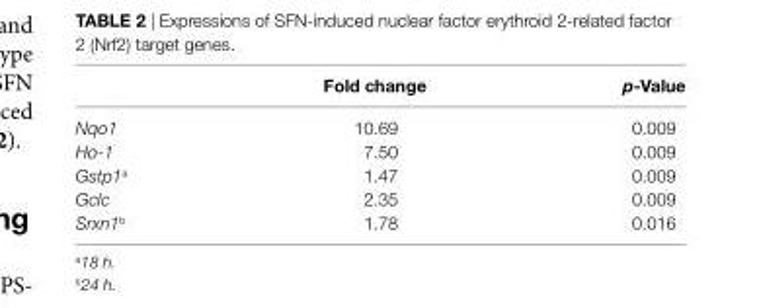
<table><thead><tr><td></td><td>Fold change</td><td>p-Value</td></tr></thead><tbody><tr><td>Nqo1</td><td>10.69</td><td>0.009</td></tr><tr><td>Ho-1</td><td>7.50</td><td>0.009</td></tr><tr><td>Gstp1<sup>a</sup></td><td>1.47</td><td>0.009</td></tr><tr><td>Gclc</td><td>2.35</td><td>0.009</td></tr><tr><td>Srxn1<sup>b</sup></td><td>1.78</td><td>0.016</td></tr></tbody></table>